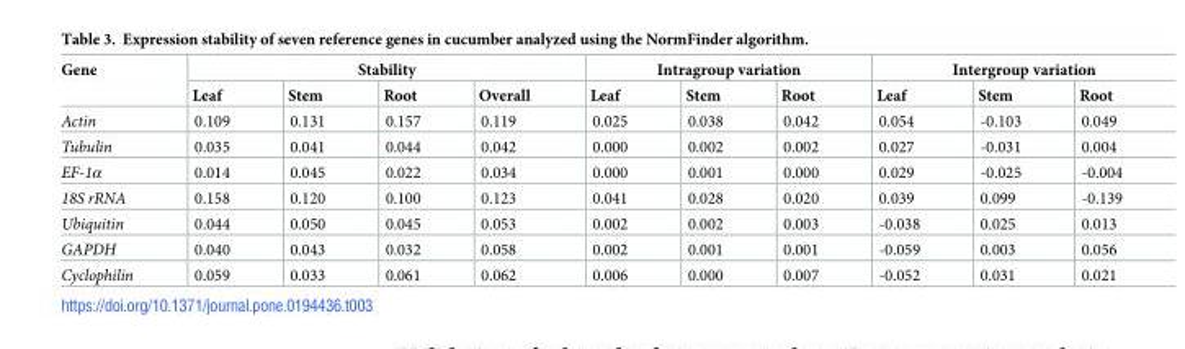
<table><thead><tr><td rowspan="2">Gene</td><td colspan="4">Stability</td><td colspan="3">Intragroup variation</td><td colspan="3">Intergroup variation</td></tr><tr><td>Leaf</td><td>Stem</td><td>Root</td><td>Overall</td><td>Leaf</td><td>Stem</td><td>Root</td><td>Leaf</td><td>Stem</td><td>Root</td></tr></thead><tbody><tr><td>Actin</td><td>0.109</td><td>0.131</td><td>0.157</td><td>0.119</td><td>0.025</td><td>0.038</td><td>0.042</td><td>0.054</td><td>-0.103</td><td>0.049</td></tr><tr><td>Tubulin</td><td>0.035</td><td>0.041</td><td>0.044</td><td>0.042</td><td>0.000</td><td>0.002</td><td>0.002</td><td>0.027</td><td>-0.031</td><td>0.004</td></tr><tr><td>EF-1α</td><td>0.014</td><td>0.045</td><td>0.022</td><td>0.034</td><td>0.000</td><td>0.001</td><td>0.000</td><td>0.029</td><td>-0.025</td><td>-0.004</td></tr><tr><td>18S rRNA</td><td>0.158</td><td>0.120</td><td>0.100</td><td>0.123</td><td>0.041</td><td>0.028</td><td>0.020</td><td>0.039</td><td>0.099</td><td>-0.139</td></tr><tr><td>Ubiquitin</td><td>0.044</td><td>0.050</td><td>0.045</td><td>0.053</td><td>0.002</td><td>0.002</td><td>0.003</td><td>-0.038</td><td>0.025</td><td>0.013</td></tr><tr><td>GAPDH</td><td>0.040</td><td>0.043</td><td>0.032</td><td>0.058</td><td>0.002</td><td>0.001</td><td>0.001</td><td>-0.059</td><td>0.003</td><td>0.056</td></tr><tr><td>Cyclophilin</td><td>0.059</td><td>0.033</td><td>0.061</td><td>0.062</td><td>0.006</td><td>0.000</td><td>0.007</td><td>-0.052</td><td>0.031</td><td>0.021</td></tr></tbody></table>